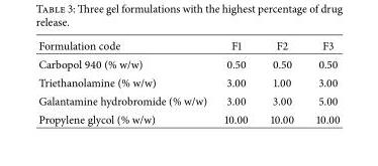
<table><thead><tr><td>Formulation code</td><td>F1</td><td>F2</td><td>F3</td></tr></thead><tbody><tr><td>Carbopol 940 (% w/w)</td><td>0.50</td><td>0.50</td><td>0.50</td></tr><tr><td>Triethanolamine (% w/w)</td><td>3.00</td><td>1.00</td><td>3.00</td></tr><tr><td>Galantamine hydrobromide (% w/w)</td><td>3.00</td><td>3.00</td><td>5.00</td></tr><tr><td>Propylene glycol (% w/w)</td><td>10.00</td><td>10.00</td><td>10.00</td></tr></tbody></table>